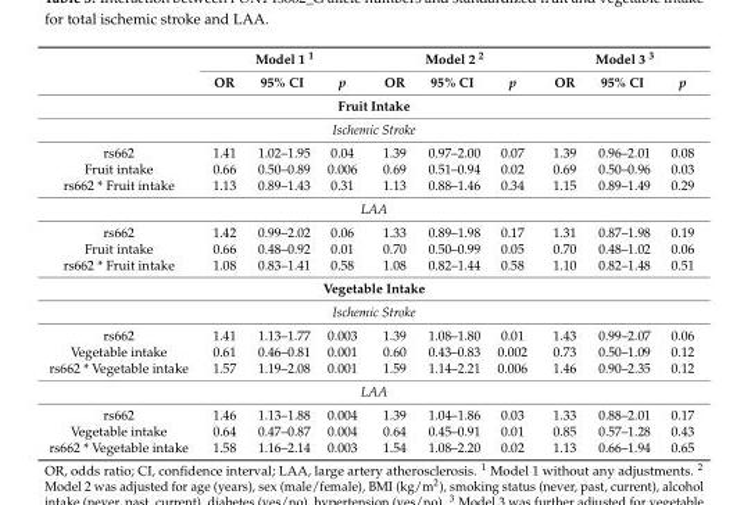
<table><thead><tr><td rowspan="2"></td><td colspan="3">Model 1 <sup>1</sup></td><td colspan="3">Model 2 <sup>2</sup></td><td colspan="3">Model 3 <sup>3</sup></td></tr><tr><td>OR</td><td>95% CI</td><td>p</td><td>OR</td><td>95% CI</td><td>p</td><td>OR</td><td>95% CI</td><td>p</td></tr></thead><tbody><tr><td colspan="10">Fruit Intake</td></tr><tr><td colspan="10">Ischemic Stroke</td></tr><tr><td>rs662</td><td>1.41</td><td>1.02–1.95</td><td>0.04</td><td>1.39</td><td>0.97–2.00</td><td>0.07</td><td>1.39</td><td>0.96–2.01</td><td>0.08</td></tr><tr><td>Fruit intake</td><td>0.66</td><td>0.50–0.89</td><td>0.006</td><td>0.69</td><td>0.51–0.94</td><td>0.02</td><td>0.69</td><td>0.50–0.96</td><td>0.03</td></tr><tr><td>rs662 * Fruit intake</td><td>1.13</td><td>0.89–1.43</td><td>0.31</td><td>1.13</td><td>0.88–1.46</td><td>0.34</td><td>1.15</td><td>0.89–1.49</td><td>0.29</td></tr><tr><td colspan="10">LAA</td></tr><tr><td>rs662</td><td>1.42</td><td>0.99–2.02</td><td>0.06</td><td>1.33</td><td>0.89–1.98</td><td>0.17</td><td>1.31</td><td>0.87–1.98</td><td>0.19</td></tr><tr><td>Fruit intake</td><td>0.66</td><td>0.48–0.92</td><td>0.01</td><td>0.70</td><td>0.50–0.99</td><td>0.05</td><td>0.70</td><td>0.48–1.02</td><td>0.06</td></tr><tr><td>rs662 * Fruit intake</td><td>1.08</td><td>0.83–1.41</td><td>0.58</td><td>1.08</td><td>0.82–1.44</td><td>0.58</td><td>1.10</td><td>0.82–1.48</td><td>0.51</td></tr><tr><td colspan="10">Vegetable Intake</td></tr><tr><td colspan="10">Ischemic Stroke</td></tr><tr><td>rs662</td><td>1.41</td><td>1.13–1.77</td><td>0.003</td><td>1.39</td><td>1.08–1.80</td><td>0.01</td><td>1.43</td><td>0.99–2.07</td><td>0.06</td></tr><tr><td>Vegetable intake</td><td>0.61</td><td>0.46–0.81</td><td>0.001</td><td>0.60</td><td>0.43–0.83</td><td>0.002</td><td>0.73</td><td>0.50–1.09</td><td>0.12</td></tr><tr><td>rs662 * Vegetable intake</td><td>1.57</td><td>1.19–2.08</td><td>0.001</td><td>1.59</td><td>1.14–2.21</td><td>0.006</td><td>1.46</td><td>0.90–2.35</td><td>0.12</td></tr><tr><td colspan="10">LAA</td></tr><tr><td>rs662</td><td>1.46</td><td>1.13–1.88</td><td>0.004</td><td>1.39</td><td>1.04–1.86</td><td>0.03</td><td>1.33</td><td>0.88–2.01</td><td>0.17</td></tr><tr><td>Vegetable intake</td><td>0.64</td><td>0.47–0.87</td><td>0.004</td><td>0.64</td><td>0.45–0.91</td><td>0.01</td><td>0.85</td><td>0.57–1.28</td><td>0.43</td></tr><tr><td>rs662 * Vegetable intake</td><td>1.58</td><td>1.16–2.14</td><td>0.003</td><td>1.54</td><td>1.08–2.20</td><td>0.02</td><td>1.13</td><td>0.66–1.94</td><td>0.65</td></tr></tbody></table>